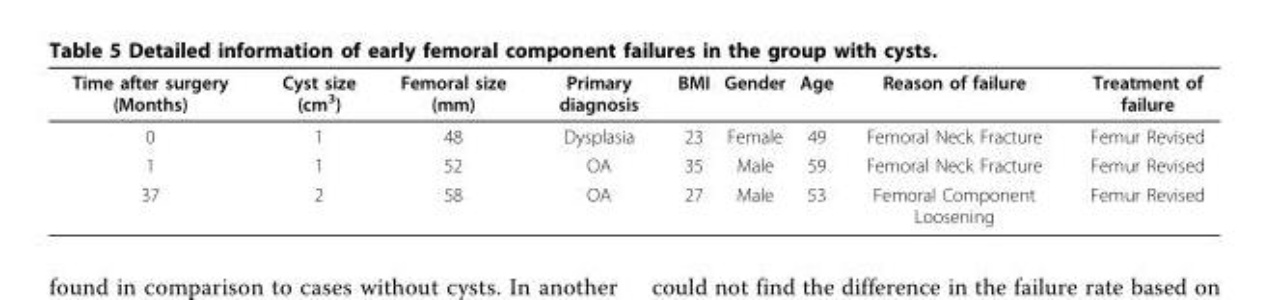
<table><thead><tr><td>Time after surgery (Months)</td><td>Cyst size (cm<sup>3</sup>)</td><td>Femoral size (mm)</td><td>Primary diagnosis</td><td>BMI</td><td>Gender</td><td>Age</td><td>Reason of failure</td><td>Treatment of failure</td></tr></thead><tbody><tr><td>0</td><td>1</td><td>48</td><td>Dysplasia</td><td>23</td><td>Female</td><td>49</td><td>Femoral Neck Fracture</td><td>Femur Revised</td></tr><tr><td>1</td><td>1</td><td>52</td><td>OA</td><td>35</td><td>Male</td><td>59</td><td>Femoral Neck Fracture</td><td>Femur Revised</td></tr><tr><td>37</td><td>2</td><td>58</td><td>OA</td><td>27</td><td>Male</td><td>53</td><td>Femoral Component Loosening</td><td>Femur Revised</td></tr></tbody></table>